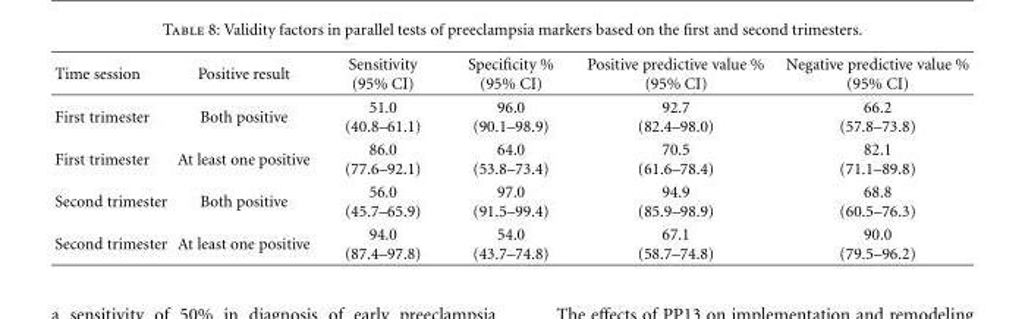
<table><thead><tr><td>Time session</td><td>Positive result</td><td>Sensitivity (95% CI)</td><td>Specificity % (95% CI)</td><td>Positive predictive value % (95% CI)</td><td>Negative predictive value % (95% CI)</td></tr></thead><tbody><tr><td>First trimester</td><td>Both positive</td><td>51.0 (40.8–61.1)</td><td>96.0 (90.1–98.9)</td><td>92.7 (82.4–98.0)</td><td>66.2 (57.8–73.8)</td></tr><tr><td>First trimester</td><td>At least one positive</td><td>86.0 (77.6–92.1)</td><td>64.0 (53.8–73.4)</td><td>70.5 (61.6–78.4)</td><td>82.1 (71.1–89.8)</td></tr><tr><td>Second trimester</td><td>Both positive</td><td>56.0 (45.7–65.9)</td><td>97.0 (91.5–99.4)</td><td>94.9 (85.9–98.9)</td><td>68.8 (60.5–76.3)</td></tr><tr><td>Second trimester</td><td>At least one positive</td><td>94.0 (87.4–97.8)</td><td>54.0 (43.7–74.8)</td><td>67.1 (58.7–74.8)</td><td>90.0 (79.5–96.2)</td></tr></tbody></table>